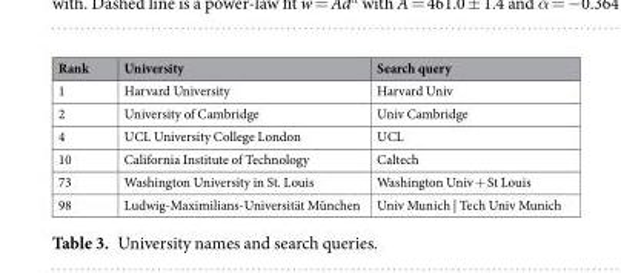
<table><thead><tr><td>Rank</td><td>University</td><td>Search query</td></tr></thead><tbody><tr><td>1</td><td>Harvard University</td><td>Harvard Univ</td></tr><tr><td>2</td><td>University of Cambridge</td><td>Univ Cambridge</td></tr><tr><td>4</td><td>UCL University College London</td><td>UCL</td></tr><tr><td>10</td><td>California Institute of Technology</td><td>Caltech</td></tr><tr><td>73</td><td>Washington University in St. Louis</td><td>Washington Univ + St Louis</td></tr><tr><td>98</td><td>Ludwig-Maximilians-Universität München</td><td>Univ Munich | Tech Univ Munich</td></tr></tbody></table>